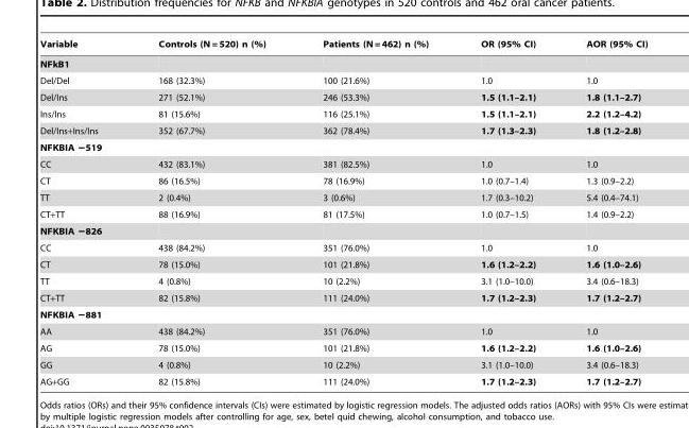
<table><thead><tr><td>Variable</td><td>Controls (N = 520) n (%)</td><td>Patients (N = 462) n (%)</td><td>OR (95% CI)</td><td>AOR (95% CI)</td></tr></thead><tbody><tr><td colspan="5">NFkB1</td></tr><tr><td>Del/Del</td><td>168 (32.3%)</td><td>100 (21.6%)</td><td>1.0</td><td>1.0</td></tr><tr><td>Del/Ins</td><td>271 (52.1%)</td><td>246 (53.3%)</td><td>1.5 (1.1–2.1)</td><td>1.8 (1.1–2.7)</td></tr><tr><td>Ins/Ins</td><td>81 (15.6%)</td><td>116 (25.1%)</td><td>1.5 (1.1–2.1)</td><td>2.2 (1.2–4.2)</td></tr><tr><td>Del/Ins+Ins/Ins</td><td>352 (67.7%)</td><td>362 (78.4%)</td><td>1.7 (1.3–2.3)</td><td>1.8 (1.2–2.8)</td></tr><tr><td colspan="5">NFKBIA −519</td></tr><tr><td>CC</td><td>432 (83.1%)</td><td>381 (82.5%)</td><td>1.0</td><td>1.0</td></tr><tr><td>CT</td><td>86 (16.5%)</td><td>78 (16.9%)</td><td>1.0 (0.7–1.4)</td><td>1.3 (0.9–2.2)</td></tr><tr><td>TT</td><td>2 (0.4%)</td><td>3 (0.6%)</td><td>1.7 (0.3–10.2)</td><td>5.4 (0.4–74.1)</td></tr><tr><td>CT+TT</td><td>88 (16.9%)</td><td>81 (17.5%)</td><td>1.0 (0.7–1.5)</td><td>1.4 (0.9–2.2)</td></tr><tr><td colspan="5">NFKBIA −826</td></tr><tr><td>CC</td><td>438 (84.2%)</td><td>351 (76.0%)</td><td>1.0</td><td>1.0</td></tr><tr><td>CT</td><td>78 (15.0%)</td><td>101 (21.8%)</td><td>1.6 (1.2–2.2)</td><td>1.6 (1.0–2.6)</td></tr><tr><td>TT</td><td>4 (0.8%)</td><td>10 (2.2%)</td><td>3.1 (1.0–10.0)</td><td>3.4 (0.6–18.3)</td></tr><tr><td>CT+TT</td><td>82 (15.8%)</td><td>111 (24.0%)</td><td>1.7 (1.2–2.3)</td><td>1.7 (1.2–2.7)</td></tr><tr><td colspan="5">NFKBIA −881</td></tr><tr><td>AA</td><td>438 (84.2%)</td><td>351 (76.0%)</td><td>1.0</td><td>1.0</td></tr><tr><td>AG</td><td>78 (15.0%)</td><td>101 (21.8%)</td><td>1.6 (1.2–2.2)</td><td>1.6 (1.0–2.6)</td></tr><tr><td>GG</td><td>4 (0.8%)</td><td>10 (2.2%)</td><td>3.1 (1.0–10.0)</td><td>3.4 (0.6–18.3)</td></tr><tr><td>AG+GG</td><td>82 (15.8%)</td><td>111 (24.0%)</td><td>1.7 (1.2–2.3)</td><td>1.7 (1.2–2.7)</td></tr></tbody></table>